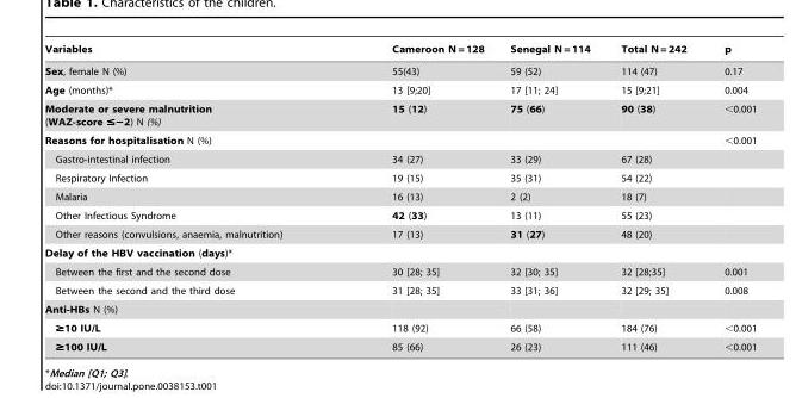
<table><thead><tr><td>Variables</td><td>Cameroon N = 128</td><td>Senegal N = 114</td><td>Total N = 242</td><td>p</td></tr></thead><tbody><tr><td>Sex, female N (%)</td><td>55(43)</td><td>59 (52)</td><td>114 (47)</td><td>0.17</td></tr><tr><td>Age (months)*</td><td>13 [9;20]</td><td>17 [11; 24]</td><td>15 [9;21]</td><td>0.004</td></tr><tr><td>Moderate or severe malnutrition (WAZ-score ≤−2) N (%)</td><td>15 (12)</td><td>75 (66)</td><td>90 (38)</td><td>&lt;0.001</td></tr><tr><td>Reasons for hospitalisation N (%)</td><td></td><td></td><td></td><td>&lt;0.001</td></tr><tr><td>Gastro-intestinal infection</td><td>34 (27)</td><td>33 (29)</td><td>67 (28)</td><td></td></tr><tr><td>Respiratory Infection</td><td>19 (15)</td><td>35 (31)</td><td>54 (22)</td><td></td></tr><tr><td>Malaria</td><td>16 (13)</td><td>2 (2)</td><td>18 (7)</td><td></td></tr><tr><td>Other Infectious Syndrome</td><td>42 (33)</td><td>13 (11)</td><td>55 (23)</td><td></td></tr><tr><td>Other reasons (convulsions, anaemia, malnutrition)</td><td>17 (13)</td><td>31 (27)</td><td>48 (20)</td><td></td></tr><tr><td colspan="5">Delay of the HBV vaccination (days)*</td></tr><tr><td>Between the first and the second dose</td><td>30 [28; 35]</td><td>32 [30; 35]</td><td>32 [28;35]</td><td>0.001</td></tr><tr><td>Between the second and the third dose</td><td>31 [28; 35]</td><td>33 [31; 36]</td><td>32 [29; 35]</td><td>0.008</td></tr><tr><td colspan="5">Anti-HBs N (%)</td></tr><tr><td>≥10 IU/L</td><td>118 (92)</td><td>66 (58)</td><td>184 (76)</td><td>&lt;0.001</td></tr><tr><td>≥100 IU/L</td><td>85 (66)</td><td>26 (23)</td><td>111 (46)</td><td>&lt;0.001</td></tr></tbody></table>